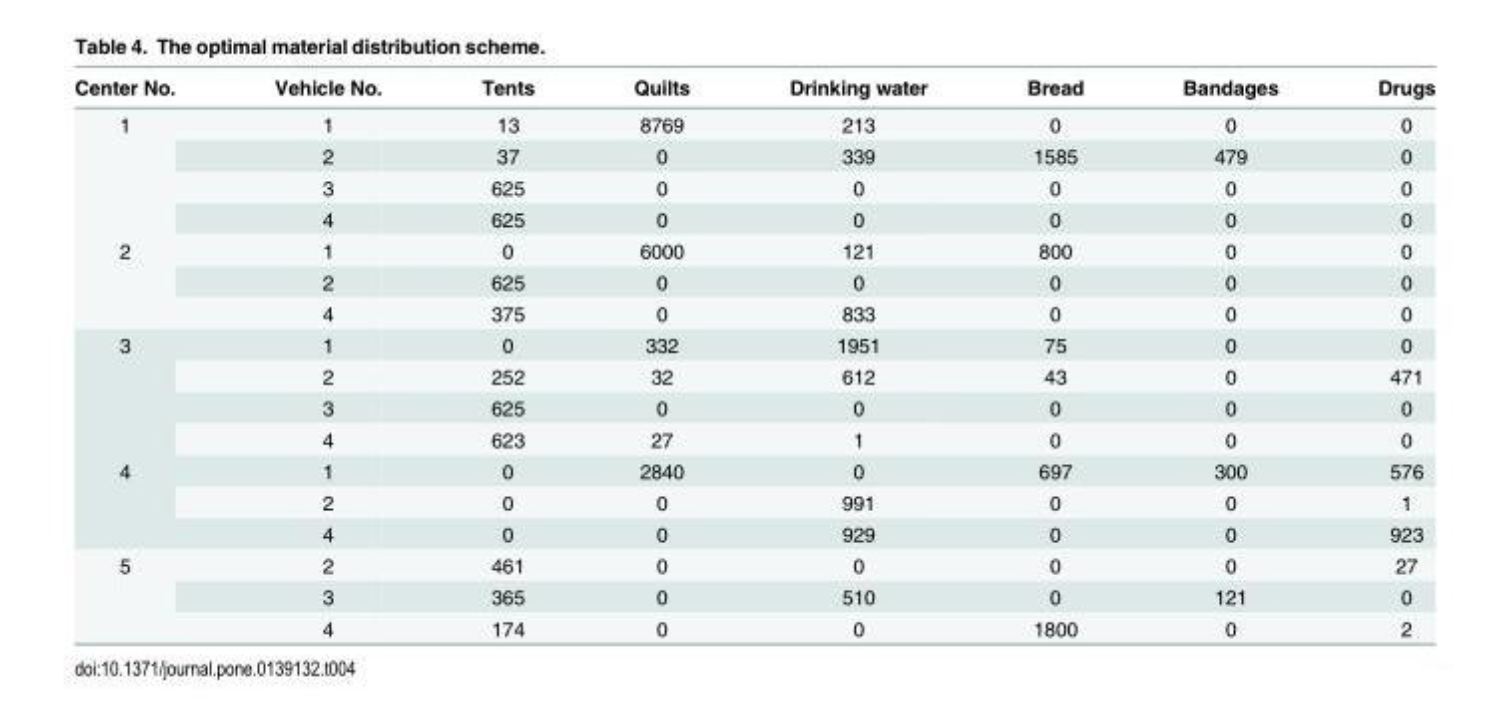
<table><thead><tr><td>Center No.</td><td>Vehicle No.</td><td>Tents</td><td>Quilts</td><td>Drinking water</td><td>Bread</td><td>Bandages</td><td>Drugs</td></tr></thead><tbody><tr><td rowspan="4">1</td><td>1</td><td>13</td><td>8769</td><td>213</td><td>0</td><td>0</td><td>0</td></tr><tr><td>2</td><td>37</td><td>0</td><td>339</td><td>1585</td><td>479</td><td>0</td></tr><tr><td>3</td><td>625</td><td>0</td><td>0</td><td>0</td><td>0</td><td>0</td></tr><tr><td>4</td><td>625</td><td>0</td><td>0</td><td>0</td><td>0</td><td>0</td></tr><tr><td rowspan="3">2</td><td>1</td><td>0</td><td>6000</td><td>121</td><td>800</td><td>0</td><td>0</td></tr><tr><td>2</td><td>625</td><td>0</td><td>0</td><td>0</td><td>0</td><td>0</td></tr><tr><td>4</td><td>375</td><td>0</td><td>833</td><td>0</td><td>0</td><td>0</td></tr><tr><td rowspan="4">3</td><td>1</td><td>0</td><td>332</td><td>1951</td><td>75</td><td>0</td><td>0</td></tr><tr><td>2</td><td>252</td><td>32</td><td>612</td><td>43</td><td>0</td><td>471</td></tr><tr><td>3</td><td>625</td><td>0</td><td>0</td><td>0</td><td>0</td><td>0</td></tr><tr><td>4</td><td>623</td><td>27</td><td>1</td><td>0</td><td>0</td><td>0</td></tr><tr><td rowspan="3">4</td><td>1</td><td>0</td><td>2840</td><td>0</td><td>697</td><td>300</td><td>576</td></tr><tr><td>2</td><td>0</td><td>0</td><td>991</td><td>0</td><td>0</td><td>1</td></tr><tr><td>4</td><td>0</td><td>0</td><td>929</td><td>0</td><td>0</td><td>923</td></tr><tr><td rowspan="3">5</td><td>2</td><td>461</td><td>0</td><td>0</td><td>0</td><td>0</td><td>27</td></tr><tr><td>3</td><td>365</td><td>0</td><td>510</td><td>0</td><td>121</td><td>0</td></tr><tr><td>4</td><td>174</td><td>0</td><td>0</td><td>1800</td><td>0</td><td>2</td></tr></tbody></table>